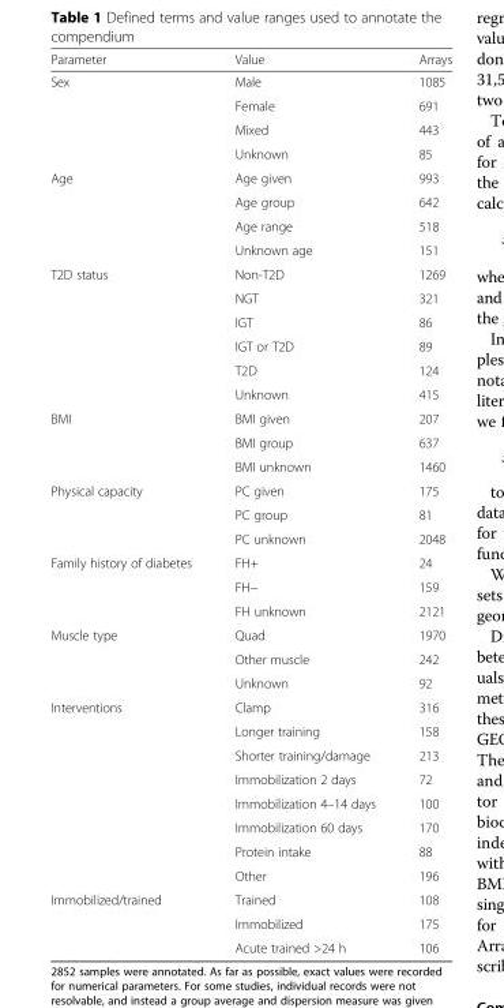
<table><thead><tr><td>Parameter</td><td>Value</td><td>Arrays</td></tr></thead><tbody><tr><td rowspan="4">Sex</td><td>Male</td><td>1085</td></tr><tr><td>Female</td><td>691</td></tr><tr><td>Mixed</td><td>443</td></tr><tr><td>Unknown</td><td>85</td></tr><tr><td rowspan="4">Age</td><td>Age given</td><td>993</td></tr><tr><td>Age group</td><td>642</td></tr><tr><td>Age range</td><td>518</td></tr><tr><td>Unknown age</td><td>151</td></tr><tr><td rowspan="6">T2D status</td><td>Non-T2D</td><td>1269</td></tr><tr><td>NGT</td><td>321</td></tr><tr><td>IGT</td><td>86</td></tr><tr><td>IGT or T2D</td><td>89</td></tr><tr><td>T2D</td><td>124</td></tr><tr><td>Unknown</td><td>415</td></tr><tr><td rowspan="3">BMI</td><td>BMI given</td><td>207</td></tr><tr><td>BMI group</td><td>637</td></tr><tr><td>BMI unknown</td><td>1460</td></tr><tr><td rowspan="3">Physical capacity</td><td>PC given</td><td>175</td></tr><tr><td>PC group</td><td>81</td></tr><tr><td>PC unknown</td><td>2048</td></tr><tr><td rowspan="3">Family history of diabetes</td><td>FH+</td><td>24</td></tr><tr><td>FH−</td><td>159</td></tr><tr><td>FH unknown</td><td>2121</td></tr><tr><td rowspan="3">Muscle type</td><td>Quad</td><td>1970</td></tr><tr><td>Other muscle</td><td>242</td></tr><tr><td>Unknown</td><td>92</td></tr><tr><td rowspan="8">Interventions</td><td>Clamp</td><td>316</td></tr><tr><td>Longer training</td><td>158</td></tr><tr><td>Shorter training/damage</td><td>213</td></tr><tr><td>Immobilization 2 days</td><td>72</td></tr><tr><td>Immobilization 4–14 days</td><td>100</td></tr><tr><td>Immobilization 60 days</td><td>170</td></tr><tr><td>Protein intake</td><td>88</td></tr><tr><td>Other</td><td>196</td></tr><tr><td rowspan="3">Immobilized/trained</td><td>Trained</td><td>108</td></tr><tr><td>Immobilized</td><td>175</td></tr><tr><td>Acute trained &gt;24 h</td><td>106</td></tr></tbody></table>